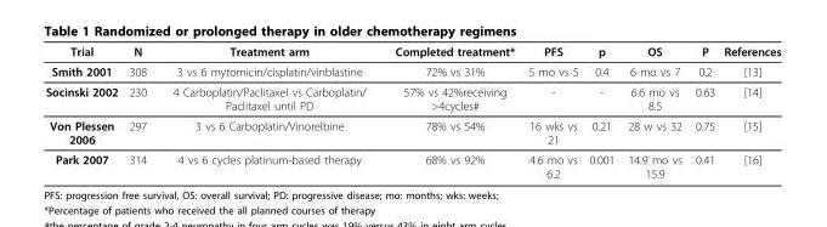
<table><thead><tr><td>Trial</td><td>N</td><td>Treatment arm</td><td>Completed treatment*</td><td>PFS</td><td>p</td><td>OS</td><td>P</td><td>References</td></tr></thead><tbody><tr><td>Smith 2001</td><td>308</td><td>3 vs 6 mytomicin/cisplatin/vinblastine</td><td>72% vs 31%</td><td>5 mo vs 5</td><td>0.4</td><td>6 mo vs 7</td><td>0.2</td><td>[13]</td></tr><tr><td>Socinski 2002</td><td>230</td><td>4 Carboplatin/Paclitaxel vs Carboplatin/ Paclitaxel until PD</td><td>57% vs 42%receiving &gt;4cycles#</td><td>-</td><td>-</td><td>6.6 mo vs 8.5</td><td>0.63</td><td>[14]</td></tr><tr><td>Von Plessen 2006</td><td>297</td><td>3 vs 6 Carboplatin/Vinorelbine</td><td>78% vs 54%</td><td>16 wks vs 21</td><td>0.21</td><td>28 w vs 32</td><td>0.75</td><td>[15]</td></tr><tr><td>Park 2007</td><td>314</td><td>4 vs 6 cycles platinum-based therapy</td><td>68% vs 92%</td><td>4.6 mo vs 6.2</td><td>0.001</td><td>14.9 mo vs 15.9</td><td>0.41</td><td>[16]</td></tr></tbody></table>